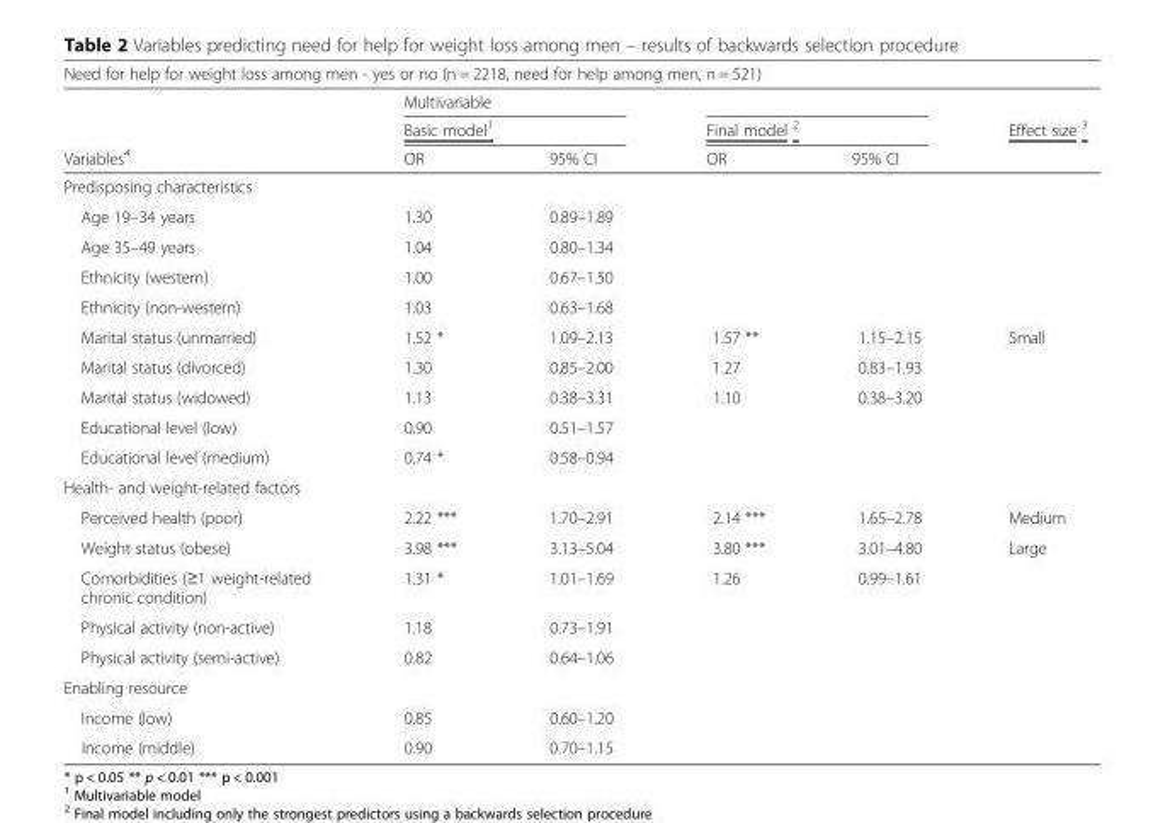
<table><thead><tr><td colspan="6">Need for help for weight loss among men - yes or no (n = 2218, need for help among men, n = 521)</td></tr><tr><td rowspan="3">Variables<sup>4</sup></td><td rowspan="2" colspan="2">Multivariable Basic model<sup>1</sup></td><td></td><td></td><td rowspan="3">Effect size <sup>3</sup></td></tr><tr><td colspan="2">Final model <sup>2</sup></td></tr><tr><td>OR</td><td>95% CI</td><td>OR</td><td>95% CI</td></tr></thead><tbody><tr><td colspan="6">Predisposing characteristics</td></tr><tr><td>Age 19–34 years</td><td>1.30</td><td>0.89–1.89</td><td></td><td></td><td></td></tr><tr><td>Age 35–49 years</td><td>1.04</td><td>0.80–1.34</td><td></td><td></td><td></td></tr><tr><td>Ethnicity (western)</td><td>1.00</td><td>0.67–1.50</td><td></td><td></td><td></td></tr><tr><td>Ethnicity (non-western)</td><td>1.03</td><td>0.63–1.68</td><td></td><td></td><td></td></tr><tr><td>Marital status (unmarried)</td><td>1.52 *</td><td>1.09–2.13</td><td>1.57 **</td><td>1.15–2.15</td><td>Small</td></tr><tr><td>Marital status (divorced)</td><td>1.30</td><td>0.85–2.00</td><td>1.27</td><td>0.83–1.93</td><td></td></tr><tr><td>Marital status (widowed)</td><td>1.13</td><td>0.38–3.31</td><td>1.10</td><td>0.38–3.20</td><td></td></tr><tr><td>Educational level (low)</td><td>0.90</td><td>0.51–1.57</td><td></td><td></td><td></td></tr><tr><td>Educational level (medium)</td><td>0.74 *</td><td>0.58–0.94</td><td></td><td></td><td></td></tr><tr><td colspan="6">Health- and weight-related factors</td></tr><tr><td>Perceived health (poor)</td><td>2.22 ***</td><td>1.70–2.91</td><td>2.14 ***</td><td>1.65–2.78</td><td>Medium</td></tr><tr><td>Weight status (obese)</td><td>3.98 ***</td><td>3.13–5.04</td><td>3.80 ***</td><td>3.01–4.80</td><td>Large</td></tr><tr><td>Comorbidities (≥1 weight-related chronic condition)</td><td>1.31 *</td><td>1.01–1.69</td><td>1.26</td><td>0.99–1.61</td><td></td></tr><tr><td>Physical activity (non-active)</td><td>1.18</td><td>0.73–1.91</td><td></td><td></td><td></td></tr><tr><td>Physical activity (semi-active)</td><td>0.82</td><td>0.64–1.06</td><td></td><td></td><td></td></tr><tr><td colspan="6">Enabling resource</td></tr><tr><td>Income (low)</td><td>0.85</td><td>0.60–1.20</td><td></td><td></td><td></td></tr><tr><td>Income (middle)</td><td>0.90</td><td>0.70–1.15</td><td></td><td></td><td></td></tr></tbody></table>